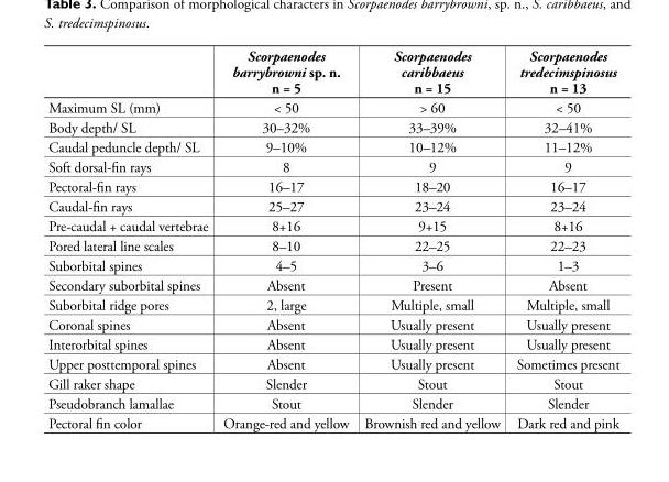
<table><thead><tr><td></td><td>Scorpaenodes barrybrowni sp. n. n = 5</td><td>Scorpaenodes caribbaeus n = 15</td><td>Scorpaenodes tredecimspinosus n = 13</td></tr></thead><tbody><tr><td>Maximum SL (mm)</td><td>&lt; 50</td><td>&gt; 60</td><td>&lt; 50</td></tr><tr><td>Body depth/ SL</td><td>30–32%</td><td>33–39%</td><td>32–41%</td></tr><tr><td>Caudal peduncle depth/ SL</td><td>9–10%</td><td>10–12%</td><td>11–12%</td></tr><tr><td>Soft dorsal-fin rays</td><td>8</td><td>9</td><td>9</td></tr><tr><td>Pectoral-fin rays</td><td>16–17</td><td>18–20</td><td>16–17</td></tr><tr><td>Caudal-fin rays</td><td>25–27</td><td>23–24</td><td>23–24</td></tr><tr><td>Pre-caudal + caudal vertebrae</td><td>8+16</td><td>9+15</td><td>8+16</td></tr><tr><td>Pored lateral line scales</td><td>8–10</td><td>22–25</td><td>22–23</td></tr><tr><td>Suborbital spines</td><td>4–5</td><td>3–6</td><td>1–3</td></tr><tr><td>Secondary suborbital spines</td><td>Absent</td><td>Present</td><td>Absent</td></tr><tr><td>Suborbital ridge pores</td><td>2, large</td><td>Multiple, small</td><td>Multiple, small</td></tr><tr><td>Coronal spines</td><td>Absent</td><td>Usually present</td><td>Usually present</td></tr><tr><td>Interorbital spines</td><td>Absent</td><td>Usually present</td><td>Usually present</td></tr><tr><td>Upper posttemporal spines</td><td>Absent</td><td>Usually present</td><td>Sometimes present</td></tr><tr><td>Gill raker shape</td><td>Slender</td><td>Stout</td><td>Stout</td></tr><tr><td>Pseudobranch lamallae</td><td>Stout</td><td>Slender</td><td>Slender</td></tr><tr><td>Pectoral fin color</td><td>Orange-red and yellow</td><td>Brownish red and yellow</td><td>Dark red and pink</td></tr></tbody></table>